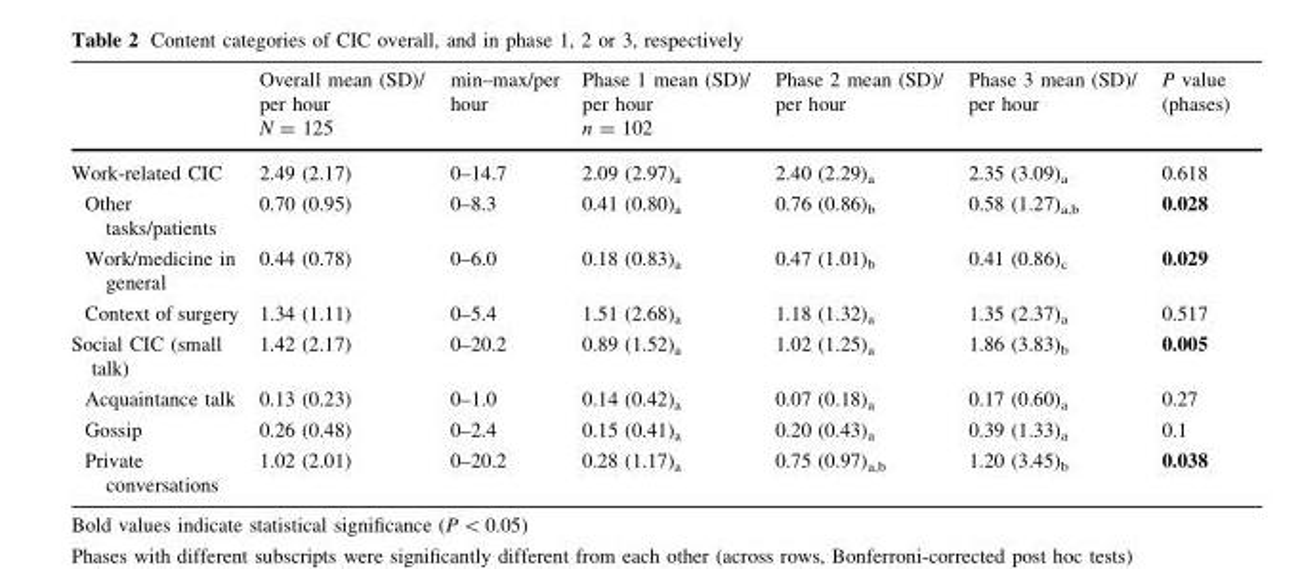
<table><thead><tr><td rowspan="2"></td><td>Overall mean (SD)/ per hour</td><td>min–max/per hour</td><td>Phase 1 mean (SD)/ per hour</td><td>Phase 2 mean (SD)/ per hour</td><td>Phase 3 mean (SD)/ per hour</td><td>P value (phases)</td></tr><tr><td colspan="2">N = 125</td><td colspan="4">n = 102</td></tr></thead><tbody><tr><td>Work-related CIC</td><td>2.49 (2.17)</td><td>0–14.7</td><td>2.09 (2.97)<sub>a</sub></td><td>2.40 (2.29)<sub>a</sub></td><td>2.35 (3.09)<sub>a</sub></td><td>0.618</td></tr><tr><td>Other tasks/patients</td><td>0.70 (0.95)</td><td>0–8.3</td><td>0.41 (0.80)<sub>a</sub></td><td>0.76 (0.86)<sub>b</sub></td><td>0.58 (1.27)<sub>a,b</sub></td><td>0.028</td></tr><tr><td>Work/medicine in general</td><td>0.44 (0.78)</td><td>0–6.0</td><td>0.18 (0.83)<sub>a</sub></td><td>0.47 (1.01)<sub>b</sub></td><td>0.41 (0.86)<sub>c</sub></td><td>0.029</td></tr><tr><td>Context of surgery</td><td>1.34 (1.11)</td><td>0–5.4</td><td>1.51 (2.68)<sub>a</sub></td><td>1.18 (1.32)<sub>a</sub></td><td>1.35 (2.37)<sub>a</sub></td><td>0.517</td></tr><tr><td>Social CIC (small talk)</td><td>1.42 (2.17)</td><td>0–20.2</td><td>0.89 (1.52)<sub>a</sub></td><td>1.02 (1.25)<sub>a</sub></td><td>1.86 (3.83)<sub>b</sub></td><td>0.005</td></tr><tr><td>Acquaintance talk</td><td>0.13 (0.23)</td><td>0–1.0</td><td>0.14 (0.42)<sub>a</sub></td><td>0.07 (0.18)<sub>a</sub></td><td>0.17 (0.60)<sub>a</sub></td><td>0.27</td></tr><tr><td>Gossip</td><td>0.26 (0.48)</td><td>0–2.4</td><td>0.15 (0.41)<sub>a</sub></td><td>0.20 (0.43)<sub>a</sub></td><td>0.39 (1.33)<sub>a</sub></td><td>0.1</td></tr><tr><td>Private conversations</td><td>1.02 (2.01)</td><td>0–20.2</td><td>0.28 (1.17)<sub>a</sub></td><td>0.75 (0.97)<sub>a,b</sub></td><td>1.20 (3.45)<sub>b</sub></td><td>0.038</td></tr></tbody></table>